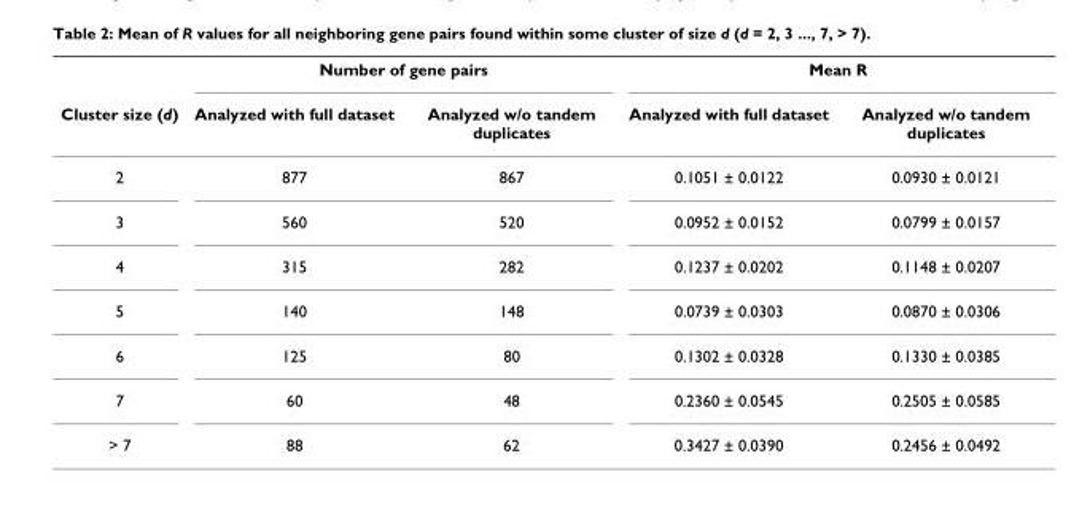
<table><thead><tr><td rowspan="2">Cluster size (d)</td><td colspan="2">Number of gene pairs</td><td colspan="2">Mean R</td></tr><tr><td>Analyzed with full dataset</td><td>Analyzed w/o tandem duplicates</td><td>Analyzed with full dataset</td><td>Analyzed w/o tandem duplicates</td></tr></thead><tbody><tr><td>2</td><td>877</td><td>867</td><td>0.1051 ± 0.0122</td><td>0.0930 ± 0.0121</td></tr><tr><td>3</td><td>560</td><td>520</td><td>0.0952 ± 0.0152</td><td>0.0799 ± 0.0157</td></tr><tr><td>4</td><td>315</td><td>282</td><td>0.1237 ± 0.0202</td><td>0.1148 ± 0.0207</td></tr><tr><td>5</td><td>140</td><td>148</td><td>0.0739 ± 0.0303</td><td>0.0870 ± 0.0306</td></tr><tr><td>6</td><td>125</td><td>80</td><td>0.1302 ± 0.0328</td><td>0.1330 ± 0.0385</td></tr><tr><td>7</td><td>60</td><td>48</td><td>0.2360 ± 0.0545</td><td>0.2505 ± 0.0585</td></tr><tr><td>&gt; 7</td><td>88</td><td>62</td><td>0.3427 ± 0.0390</td><td>0.2456 ± 0.0492</td></tr></tbody></table>